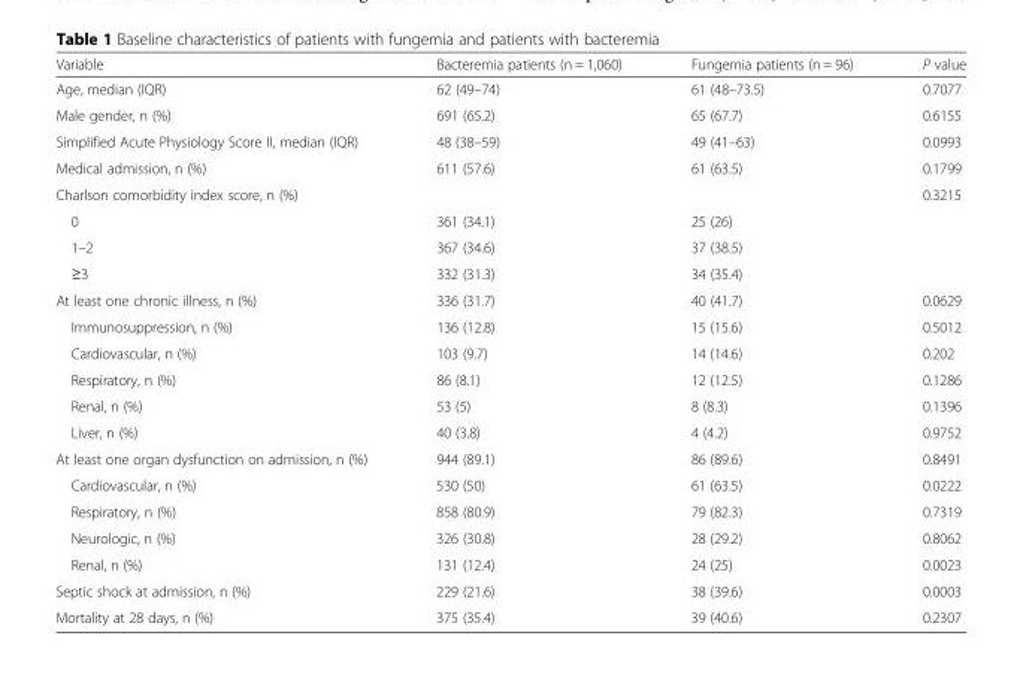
<table><thead><tr><td>Variable</td><td>Bacteremia patients (n = 1,060)</td><td>Fungemia patients (n = 96)</td><td>P value</td></tr></thead><tbody><tr><td>Age, median (IQR)</td><td>62 (49–74)</td><td>61 (48–73.5)</td><td>0.7077</td></tr><tr><td>Male gender, n (%)</td><td>691 (65.2)</td><td>65 (67.7)</td><td>0.6155</td></tr><tr><td>Simplified Acute Physiology Score II, median (IQR)</td><td>48 (38–59)</td><td>49 (41–63)</td><td>0.0993</td></tr><tr><td>Medical admission, n (%)</td><td>611 (57.6)</td><td>61 (63.5)</td><td>0.1799</td></tr><tr><td>Charlson comorbidity index score, n (%)</td><td></td><td></td><td>0.3215</td></tr><tr><td>0</td><td>361 (34.1)</td><td>25 (26)</td><td></td></tr><tr><td>1–2</td><td>367 (34.6)</td><td>37 (38.5)</td><td></td></tr><tr><td>≥3</td><td>332 (31.3)</td><td>34 (35.4)</td><td></td></tr><tr><td>At least one chronic illness, n (%)</td><td>336 (31.7)</td><td>40 (41.7)</td><td>0.0629</td></tr><tr><td>Immunosuppression, n (%)</td><td>136 (12.8)</td><td>15 (15.6)</td><td>0.5012</td></tr><tr><td>Cardiovascular, n (%)</td><td>103 (9.7)</td><td>14 (14.6)</td><td>0.202</td></tr><tr><td>Respiratory, n (%)</td><td>86 (8.1)</td><td>12 (12.5)</td><td>0.1286</td></tr><tr><td>Renal, n (%)</td><td>53 (5)</td><td>8 (8.3)</td><td>0.1396</td></tr><tr><td>Liver, n (%)</td><td>40 (3.8)</td><td>4 (4.2)</td><td>0.9752</td></tr><tr><td>At least one organ dysfunction on admission, n (%)</td><td>944 (89.1)</td><td>86 (89.6)</td><td>0.8491</td></tr><tr><td>Cardiovascular, n (%)</td><td>530 (50)</td><td>61 (63.5)</td><td>0.0222</td></tr><tr><td>Respiratory, n (%)</td><td>858 (80.9)</td><td>79 (82.3)</td><td>0.7319</td></tr><tr><td>Neurologic, n (%)</td><td>326 (30.8)</td><td>28 (29.2)</td><td>0.8062</td></tr><tr><td>Renal, n (%)</td><td>131 (12.4)</td><td>24 (25)</td><td>0.0023</td></tr><tr><td>Septic shock at admission, n (%)</td><td>229 (21.6)</td><td>38 (39.6)</td><td>0.0003</td></tr><tr><td>Mortality at 28 days, n (%)</td><td>375 (35.4)</td><td>39 (40.6)</td><td>0.2307</td></tr></tbody></table>